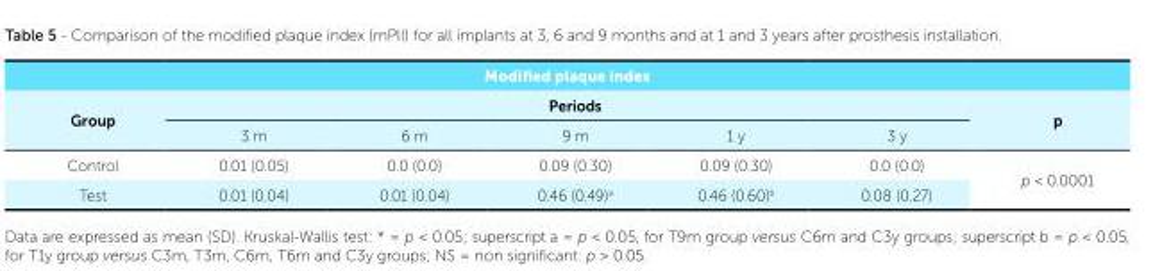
<table><tbody><tr><td colspan="7">Modified plaque index</td></tr><tr><td rowspan="2">Group</td><td colspan="5">Periods</td><td rowspan="2">p</td></tr><tr><td>3 m</td><td>6 m</td><td>9 m</td><td>1 y</td><td>3 y</td></tr><tr><td>Control</td><td>0.01 (0.05)</td><td>0.0 (0.0)</td><td>0.09 (0.30)</td><td>0.09 (0.30)</td><td>0.0 (0.0)</td><td rowspan="2">p &lt; 0.0001</td></tr><tr><td>Test</td><td>0.01 (0.04)</td><td>0.01 (0.04)</td><td>0.46 (0.49)<sup>a</sup></td><td>0.46 (0.60)<sup>b</sup></td><td>0.08 (0.27)</td></tr></tbody></table>